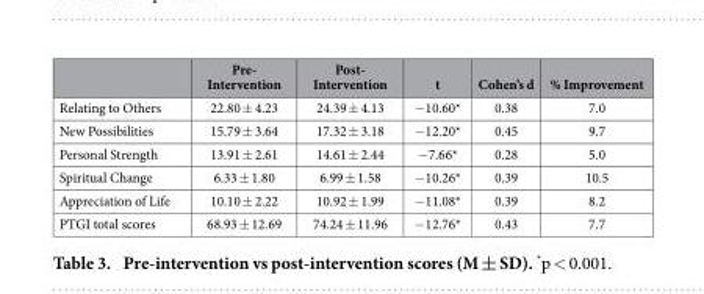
<table><thead><tr><td></td><td>Pre- Intervention</td><td>Post- Intervention</td><td>t</td><td>Cohen’s d</td><td>% Improvement</td></tr></thead><tbody><tr><td>Relating to Others</td><td>22.80 ± 4.23</td><td>24.39 ± 4.13</td><td>− 10.60*</td><td>0.38</td><td>7.0</td></tr><tr><td>New Possibilities</td><td>15.79 ± 3.64</td><td>17.32 ± 3.18</td><td>− 12.20*</td><td>0.45</td><td>9.7</td></tr><tr><td>Personal Strength</td><td>13.91 ± 2.61</td><td>14.61 ± 2.44</td><td>− 7.66*</td><td>0.28</td><td>5.0</td></tr><tr><td>Spiritual Change</td><td>6.33 ± 1.80</td><td>6.99 ± 1.58</td><td>− 10.26*</td><td>0.39</td><td>10.5</td></tr><tr><td>Appreciation of Life</td><td>10.10 ± 2.22</td><td>10.92 ± 1.99</td><td>− 11.08*</td><td>0.39</td><td>8.2</td></tr><tr><td>PTGI total scores</td><td>68.93 ± 12.69</td><td>74.24 ± 11.96</td><td>− 12.76*</td><td>0.43</td><td>7.7</td></tr></tbody></table>